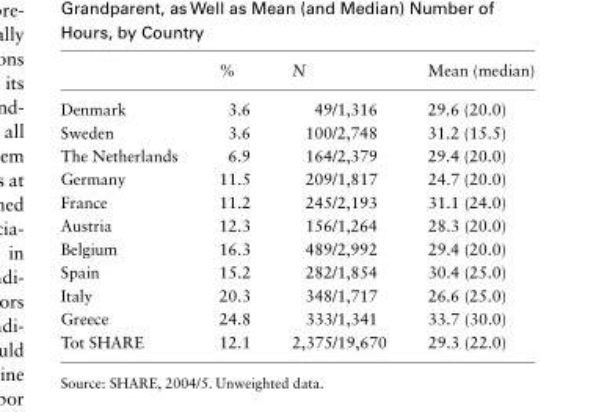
<table><thead><tr><td></td><td>%</td><td>N</td><td>Mean (median)</td></tr></thead><tbody><tr><td>Denmark</td><td>3.6</td><td>49/1,316</td><td>29.6 (20.0)</td></tr><tr><td>Sweden</td><td>3.6</td><td>100/2,748</td><td>31.2 (15.5)</td></tr><tr><td>The Netherlands</td><td>6.9</td><td>164/2,379</td><td>29.4 (20.0)</td></tr><tr><td>Germany</td><td>11.5</td><td>209/1,817</td><td>24.7 (20.0)</td></tr><tr><td>France</td><td>11.2</td><td>245/2,193</td><td>31.1 (24.0)</td></tr><tr><td>Austria</td><td>12.3</td><td>156/1,264</td><td>28.3 (20.0)</td></tr><tr><td>Belgium</td><td>16.3</td><td>489/2,992</td><td>29.4 (20.0)</td></tr><tr><td>Spain</td><td>15.2</td><td>282/1,854</td><td>30.4 (25.0)</td></tr><tr><td>Italy</td><td>20.3</td><td>348/1,717</td><td>26.6 (25.0)</td></tr><tr><td>Greece</td><td>24.8</td><td>333/1,341</td><td>33.7 (30.0)</td></tr><tr><td>Tot SHARE</td><td>12.1</td><td>2,375/19,670</td><td>29.3 (22.0)</td></tr></tbody></table>